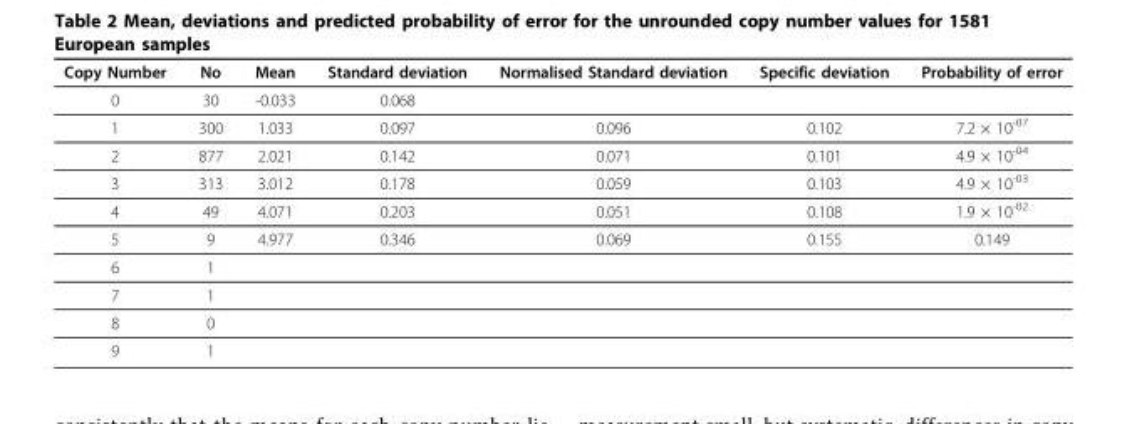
<table><thead><tr><td>Copy Number</td><td>No</td><td>Mean</td><td>Standard deviation</td><td>Normalised Standard deviation</td><td>Specific deviation</td><td>Probability of error</td></tr></thead><tbody><tr><td>0</td><td>30</td><td>-0.033</td><td>0.068</td><td></td><td></td><td></td></tr><tr><td>1</td><td>300</td><td>1.033</td><td>0.097</td><td>0.096</td><td>0.102</td><td>7.2 × 10<sup>-07</sup></td></tr><tr><td>2</td><td>877</td><td>2.021</td><td>0.142</td><td>0.071</td><td>0.101</td><td>4.9 × 10<sup>-04</sup></td></tr><tr><td>3</td><td>313</td><td>3.012</td><td>0.178</td><td>0.059</td><td>0.103</td><td>4.9 × 10<sup>-03</sup></td></tr><tr><td>4</td><td>49</td><td>4.071</td><td>0.203</td><td>0.051</td><td>0.108</td><td>1.9 × 10<sup>-02</sup></td></tr><tr><td>5</td><td>9</td><td>4.977</td><td>0.346</td><td>0.069</td><td>0.155</td><td>0.149</td></tr><tr><td>6</td><td>1</td><td></td><td></td><td></td><td></td><td></td></tr><tr><td>7</td><td>1</td><td></td><td></td><td></td><td></td><td></td></tr><tr><td>8</td><td>0</td><td></td><td></td><td></td><td></td><td></td></tr><tr><td>9</td><td>1</td><td></td><td></td><td></td><td></td><td></td></tr></tbody></table>